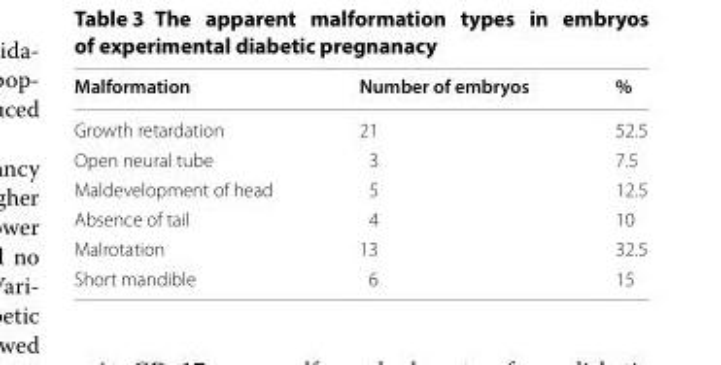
<table><thead><tr><td>Malformation</td><td>Number of embryos</td><td>%</td></tr></thead><tbody><tr><td>Growth retardation</td><td>21</td><td>52.5</td></tr><tr><td>Open neural tube</td><td>3</td><td>7.5</td></tr><tr><td>Maldevelopment of head</td><td>5</td><td>12.5</td></tr><tr><td>Absence of tail</td><td>4</td><td>10</td></tr><tr><td>Malrotation</td><td>13</td><td>32.5</td></tr><tr><td>Short mandible</td><td>6</td><td>15</td></tr></tbody></table>